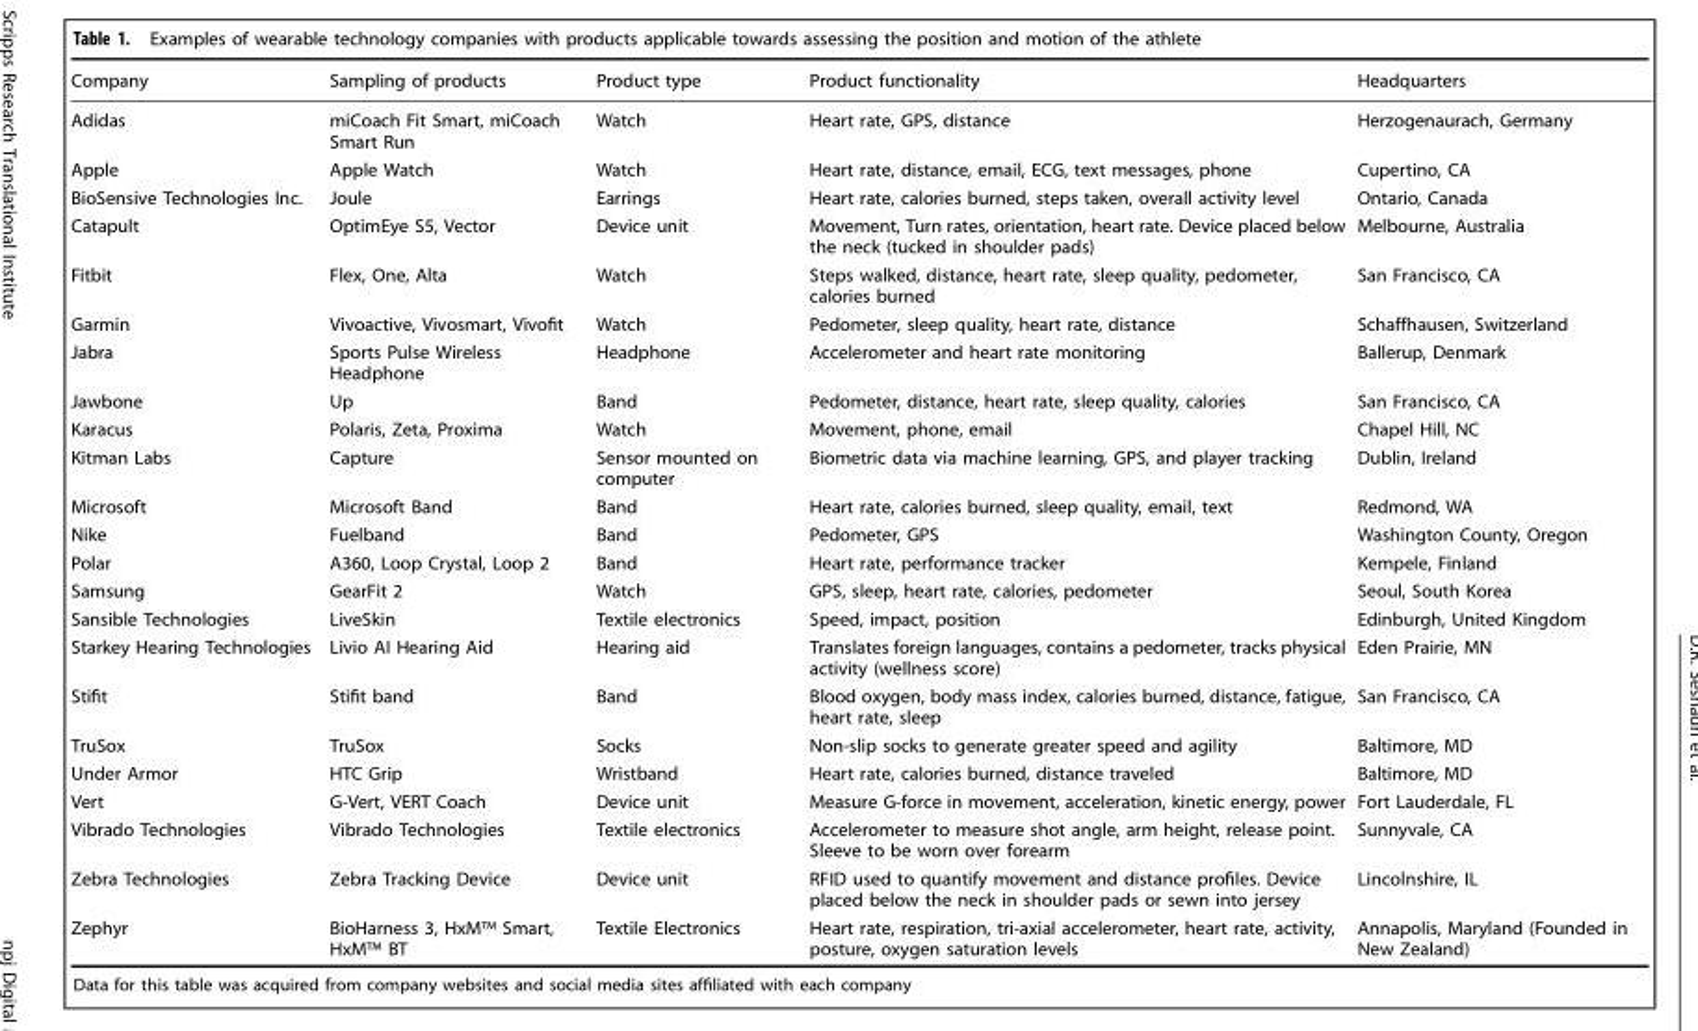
<table><thead><tr><td>Company</td><td>Sampling of products</td><td>Product type</td><td>Product functionality</td><td>Headquarters</td></tr></thead><tbody><tr><td>Adidas</td><td>miCoach Fit Smart, miCoach Smart Run</td><td>Watch</td><td>Heart rate, GPS, distance</td><td>Herzogenaurach, Germany</td></tr><tr><td>Apple</td><td>Apple Watch</td><td>Watch</td><td>Heart rate, distance, email, ECG, text messages, phone</td><td>Cupertino, CA</td></tr><tr><td>BioSensive Technologies Inc.</td><td>Joule</td><td>Earrings</td><td>Heart rate, calories burned, steps taken, overall activity level</td><td>Ontario, Canada</td></tr><tr><td>Catapult</td><td>OptimEye S5, Vector</td><td>Device unit</td><td>Movement, Turn rates, orientation, heart rate. Device placed below the neck (tucked in shoulder pads)</td><td>Melbourne, Australia</td></tr><tr><td>Fitbit</td><td>Flex, One, Alta</td><td>Watch</td><td>Steps walked, distance, heart rate, sleep quality, pedometer, calories burned</td><td>San Francisco, CA</td></tr><tr><td>Garmin</td><td>Vivoactive, Vivosmart, Vivofit</td><td>Watch</td><td>Pedometer, sleep quality, heart rate, distance</td><td>Schaffhausen, Switzerland</td></tr><tr><td>Jabra</td><td>Sports Pulse Wireless Headphone</td><td>Headphone</td><td>Accelerometer and heart rate monitoring</td><td>Ballerup, Denmark</td></tr><tr><td>Jawbone</td><td>Up</td><td>Band</td><td>Pedometer, distance, heart rate, sleep quality, calories</td><td>San Francisco, CA</td></tr><tr><td>Karacus</td><td>Polaris, Zeta, Proxima</td><td>Watch</td><td>Movement, phone, email</td><td>Chapel Hill, NC</td></tr><tr><td>Kitman Labs</td><td>Capture</td><td>Sensor mounted on computer</td><td>Biometric data via machine learning, GPS, and player tracking</td><td>Dublin, Ireland</td></tr><tr><td>Microsoft</td><td>Microsoft Band</td><td>Band</td><td>Heart rate, calories burned, sleep quality, email, text</td><td>Redmond, WA</td></tr><tr><td>Nike</td><td>Fuelband</td><td>Band</td><td>Pedometer, GPS</td><td>Washington County, Oregon</td></tr><tr><td>Polar</td><td>A360, Loop Crystal, Loop 2</td><td>Band</td><td>Heart rate, performance tracker</td><td>Kempele, Finland</td></tr><tr><td>Samsung</td><td>GearFit 2</td><td>Watch</td><td>GPS, sleep, heart rate, calories, pedometer</td><td>Seoul, South Korea</td></tr><tr><td>Sansible Technologies</td><td>LiveSkin</td><td>Textile electronics</td><td>Speed, impact, position</td><td>Edinburgh, United Kingdom</td></tr><tr><td>Starkey Hearing Technologies</td><td>Livio AI Hearing Aid</td><td>Hearing aid</td><td>Translates foreign languages, contains a pedometer, tracks physical activity (wellness score)</td><td>Eden Prairie, MN</td></tr><tr><td>Stifit</td><td>Stifit band</td><td>Band</td><td>Blood oxygen, body mass index, calories burned, distance, fatigue, heart rate, sleep</td><td>San Francisco, CA</td></tr><tr><td>TruSox</td><td>TruSox</td><td>Socks</td><td>Non-slip socks to generate greater speed and agility</td><td>Baltimore, MD</td></tr><tr><td>Under Armor</td><td>HTC Grip</td><td>Wristband</td><td>Heart rate, calories burned, distance traveled</td><td>Baltimore, MD</td></tr><tr><td>Vert</td><td>G-Vert, VERT Coach</td><td>Device unit</td><td>Measure G-force in movement, acceleration, kinetic energy, power</td><td>Fort Lauderdale, FL</td></tr><tr><td>Vibrado Technologies</td><td>Vibrado Technologies</td><td>Textile electronics</td><td>Accelerometer to measure shot angle, arm height, release point. Sleeve to be worn over forearm</td><td>Sunnyvale, CA</td></tr><tr><td>Zebra Technologies</td><td>Zebra Tracking Device</td><td>Device unit</td><td>RFID used to quantify movement and distance profiles. Device placed below the neck in shoulder pads or sewn into jersey</td><td>Lincolnshire, IL</td></tr><tr><td>Zephyr</td><td>BioHarness 3, HxM™ Smart, HxM™ BT</td><td>Textile Electronics</td><td>Heart rate, respiration, tri-axial accelerometer, heart rate, activity, posture, oxygen saturation levels</td><td>Annapolis, Maryland (Founded in New Zealand)</td></tr></tbody></table>